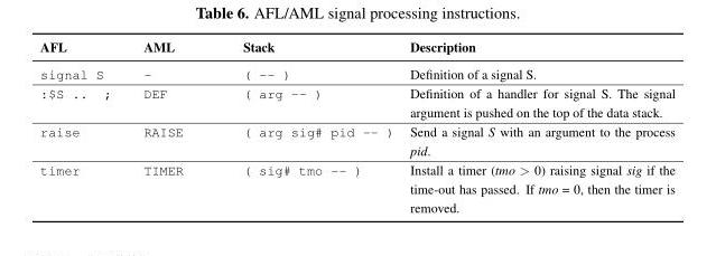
<table><thead><tr><td>AFL</td><td>AML</td><td>Stack</td><td>Description</td></tr></thead><tbody><tr><td>signal S</td><td>-</td><td>( -- )</td><td>Definition of a signal S.</td></tr><tr><td>:$S .. ;</td><td>DEF</td><td>( arg -- )</td><td>Definition of a handler for signal S. The signal argument is pushed on the top of the data stack.</td></tr><tr><td>raise</td><td>RAISE</td><td>( arg sig# pid -- )</td><td>Send a signal S with an argument to the process pid.</td></tr><tr><td>timer</td><td>TIMER</td><td>( sig# tmo -- )</td><td>Install a timer (tmo &gt; 0) raising signal sig if the time-out has passed. If tmo = 0, then the timer is removed.</td></tr></tbody></table>